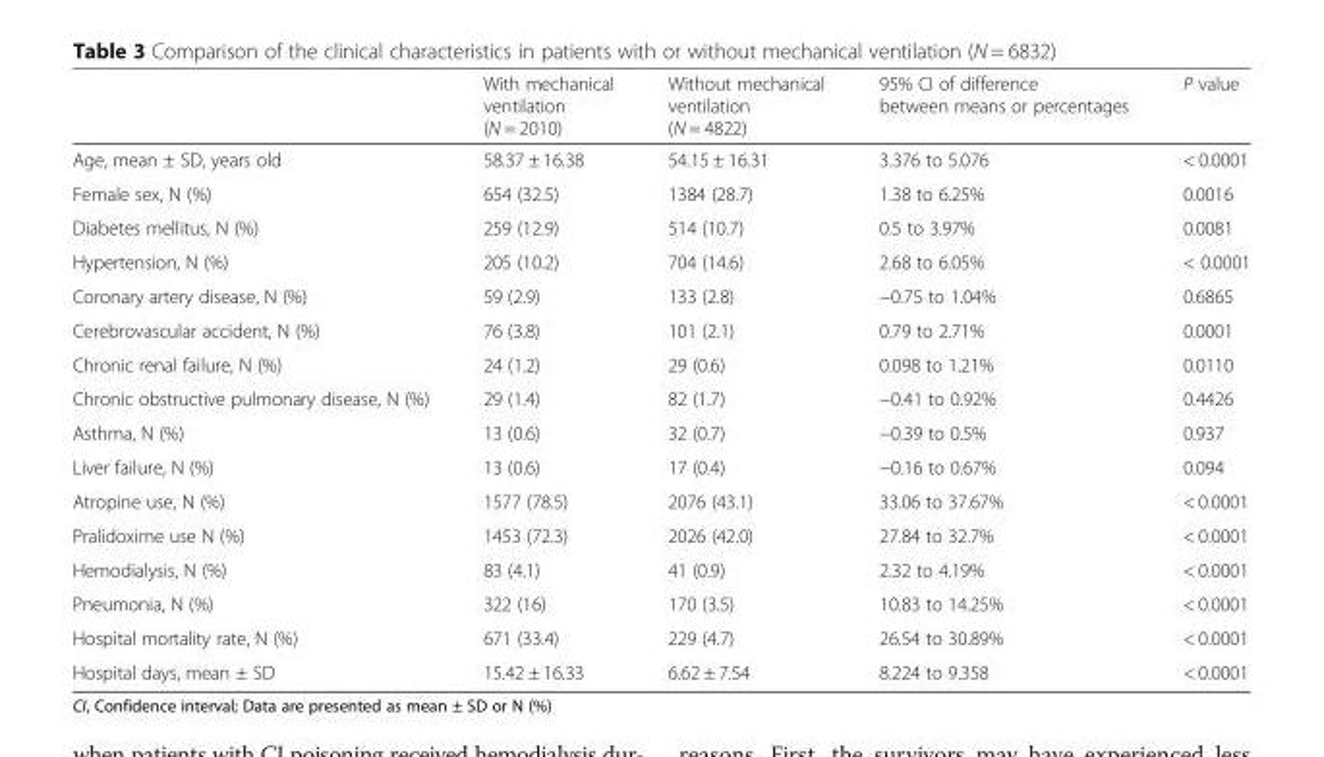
<table><thead><tr><td></td><td>With mechanical ventilation (N = 2010)</td><td>Without mechanical ventilation (N = 4822)</td><td>95% CI of difference between means or percentages</td><td>P value</td></tr></thead><tbody><tr><td>Age, mean ± SD, years old</td><td>58.37 ± 16.38</td><td>54.15 ± 16.31</td><td>3.376 to 5.076</td><td>&lt; 0.0001</td></tr><tr><td>Female sex, N (%)</td><td>654 (32.5)</td><td>1384 (28.7)</td><td>1.38 to 6.25%</td><td>0.0016</td></tr><tr><td>Diabetes mellitus, N (%)</td><td>259 (12.9)</td><td>514 (10.7)</td><td>0.5 to 3.97%</td><td>0.0081</td></tr><tr><td>Hypertension, N (%)</td><td>205 (10.2)</td><td>704 (14.6)</td><td>2.68 to 6.05%</td><td>&lt; 0.0001</td></tr><tr><td>Coronary artery disease, N (%)</td><td>59 (2.9)</td><td>133 (2.8)</td><td>−0.75 to 1.04%</td><td>0.6865</td></tr><tr><td>Cerebrovascular accident, N (%)</td><td>76 (3.8)</td><td>101 (2.1)</td><td>0.79 to 2.71%</td><td>0.0001</td></tr><tr><td>Chronic renal failure, N (%)</td><td>24 (1.2)</td><td>29 (0.6)</td><td>0.098 to 1.21%</td><td>0.0110</td></tr><tr><td>Chronic obstructive pulmonary disease, N (%)</td><td>29 (1.4)</td><td>82 (1.7)</td><td>−0.41 to 0.92%</td><td>0.4426</td></tr><tr><td>Asthma, N (%)</td><td>13 (0.6)</td><td>32 (0.7)</td><td>−0.39 to 0.5%</td><td>0.937</td></tr><tr><td>Liver failure, N (%)</td><td>13 (0.6)</td><td>17 (0.4)</td><td>−0.16 to 0.67%</td><td>0.094</td></tr><tr><td>Atropine use, N (%)</td><td>1577 (78.5)</td><td>2076 (43.1)</td><td>33.06 to 37.67%</td><td>&lt; 0.0001</td></tr><tr><td>Pralidoxime use N (%)</td><td>1453 (72.3)</td><td>2026 (42.0)</td><td>27.84 to 32.7%</td><td>&lt; 0.0001</td></tr><tr><td>Hemodialysis, N (%)</td><td>83 (4.1)</td><td>41 (0.9)</td><td>2.32 to 4.19%</td><td>&lt; 0.0001</td></tr><tr><td>Pneumonia, N (%)</td><td>322 (16)</td><td>170 (3.5)</td><td>10.83 to 14.25%</td><td>&lt; 0.0001</td></tr><tr><td>Hospital mortality rate, N (%)</td><td>671 (33.4)</td><td>229 (4.7)</td><td>26.54 to 30.89%</td><td>&lt; 0.0001</td></tr><tr><td>Hospital days, mean ± SD</td><td>15.42 ± 16.33</td><td>6.62 ± 7.54</td><td>8.224 to 9.358</td><td>&lt; 0.0001</td></tr></tbody></table>